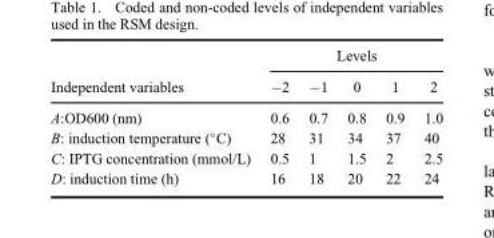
<table><thead><tr><td rowspan="2">Independent variables</td><td colspan="5">Levels</td></tr><tr><td>−2</td><td>−1</td><td>0</td><td>1</td><td>2</td></tr></thead><tbody><tr><td>A:OD600 (nm)</td><td>0.6</td><td>0.7</td><td>0.8</td><td>0.9</td><td>1.0</td></tr><tr><td>B: induction temperature (°C)</td><td>28</td><td>31</td><td>34</td><td>37</td><td>40</td></tr><tr><td>C: IPTG concentration (mmol/L)</td><td>0.5</td><td>1</td><td>1.5</td><td>2</td><td>2.5</td></tr><tr><td>D: induction time (h)</td><td>16</td><td>18</td><td>20</td><td>22</td><td>24</td></tr></tbody></table>